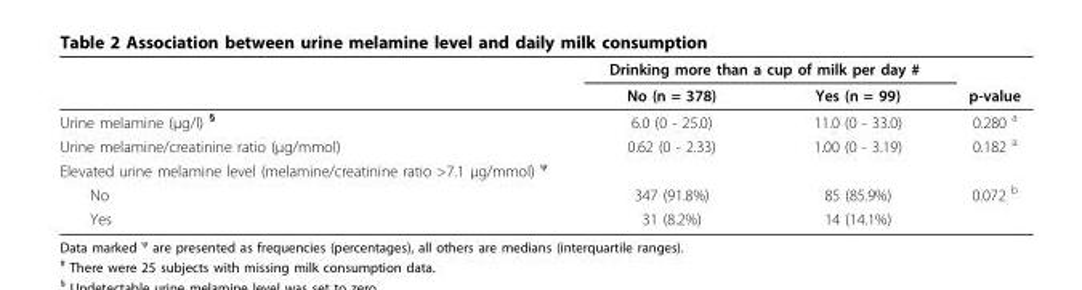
<table><thead><tr><td rowspan="2"></td><td colspan="2">Drinking more than a cup of milk per day #</td><td rowspan="2">p-value</td></tr><tr><td>No (n = 378)</td><td>Yes (n = 99)</td></tr></thead><tbody><tr><td>Urine melamine (μg/l) <sup>§</sup></td><td>6.0 (0 - 25.0)</td><td>11.0 (0 - 33.0)</td><td>0.280 <sup>a</sup></td></tr><tr><td>Urine melamine/creatinine ratio (μg/mmol)</td><td>0.62 (0 - 2.33)</td><td>1.00 (0 - 3.19)</td><td>0.182 <sup>a</sup></td></tr><tr><td colspan="4">Elevated urine melamine level (melamine/creatinine ratio &gt;7.1 μg/mmol) <sup>ψ</sup></td></tr><tr><td>No</td><td>347 (91.8%)</td><td>85 (85.9%)</td><td>0.072 <sup>b</sup></td></tr><tr><td>Yes</td><td>31 (8.2%)</td><td>14 (14.1%)</td><td></td></tr></tbody></table>